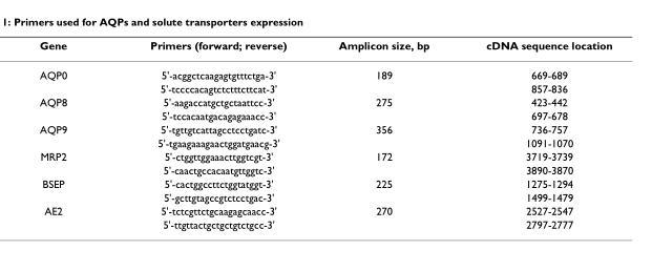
<table><thead><tr><td>Gene</td><td>Primers (forward; reverse)</td><td>Amplicon size, bp</td><td>cDNA sequence location</td></tr></thead><tbody><tr><td rowspan="2">AQP0</td><td>5&#x27;-acggctcaagagtgtttctga-3&#x27;</td><td>189</td><td>669-689</td></tr><tr><td>5&#x27;-tccccacagtctctttcttcat-3&#x27;</td><td></td><td>857-836</td></tr><tr><td rowspan="2">AQP8</td><td>5&#x27;-aagaccatgctgctaattcc-3&#x27;</td><td>275</td><td>423-442</td></tr><tr><td>5&#x27;-tccacaatgacagagaaacc-3&#x27;</td><td></td><td>697-678</td></tr><tr><td rowspan="2">AQP9</td><td>5&#x27;-tgttgtcattagcctcctgatc-3&#x27;</td><td>356</td><td>736-757</td></tr><tr><td>5&#x27;-tgaagaaagaactggatgaacg-3&#x27;</td><td></td><td>1091-1070</td></tr><tr><td rowspan="2">MRP2</td><td>5&#x27;-ctggttggaaacttggtcgt-3&#x27;</td><td>172</td><td>3719-3739</td></tr><tr><td>5&#x27;-caactgccacaatgttggtc-3&#x27;</td><td></td><td>3890-3870</td></tr><tr><td rowspan="2">BSEP</td><td>5&#x27;-cactggccttctggtatggt-3&#x27;</td><td>225</td><td>1275-1294</td></tr><tr><td>5&#x27;-gcttgtagccgtctcctgac-3&#x27;</td><td></td><td>1499-1479</td></tr><tr><td rowspan="2">AE2</td><td>5&#x27;-tctcgttctgcaagagcaacc-3&#x27;</td><td>270</td><td>2527-2547</td></tr><tr><td>5&#x27;-ttgttactgctgctgtctgcc-3&#x27;</td><td></td><td>2797-2777</td></tr></tbody></table>